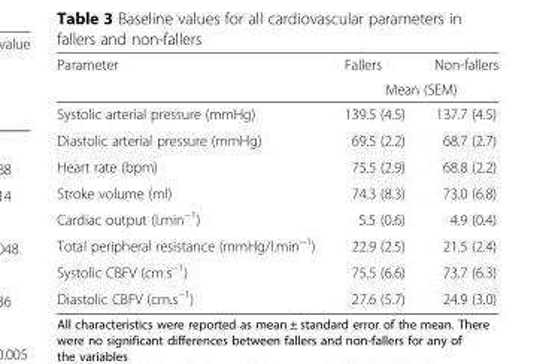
<table><thead><tr><td rowspan="2">Parameter</td><td>Fallers</td><td>Non-fallers</td></tr><tr><td colspan="2">Mean (SEM)</td></tr></thead><tbody><tr><td>Systolic arterial pressure (mmHg)</td><td>139.5 (4.5)</td><td>137.7 (4.5)</td></tr><tr><td>Diastolic arterial pressure (mmHg)</td><td>69.5 (2.2)</td><td>68.7 (2.7)</td></tr><tr><td>Heart rate (bpm)</td><td>75.5 (2.9)</td><td>68.8 (2.2)</td></tr><tr><td>Stroke volume (ml)</td><td>74.3 (8.3)</td><td>73.0 (6.8)</td></tr><tr><td>Cardiac output (l.min<sup>−1</sup>)</td><td>5.5 (0.6)</td><td>4.9 (0.4)</td></tr><tr><td>Total peripheral resistance (mmHg/l.min<sup>−1</sup>)</td><td>22.9 (2.5)</td><td>21.5 (2.4)</td></tr><tr><td>Systolic CBFV (cm.s<sup>−1</sup>)</td><td>75.5 (6.6)</td><td>73.7 (6.3)</td></tr><tr><td>Diastolic CBFV (cm.s<sup>−1</sup>)</td><td>27.6 (5.7)</td><td>24.9 (3.0)</td></tr></tbody></table>